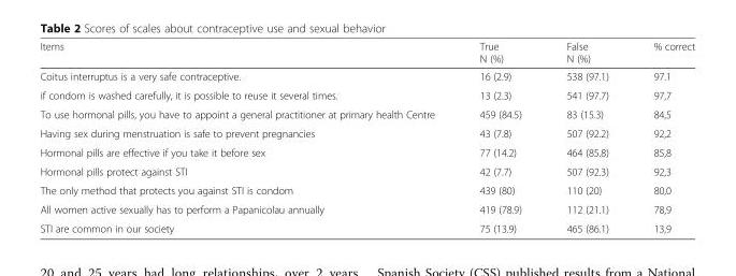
<table><thead><tr><td>Items</td><td>True N (%)</td><td>False N (%)</td><td>% correct</td></tr></thead><tbody><tr><td>Coitus interruptus is a very safe contraceptive.</td><td>16 (2.9)</td><td>538 (97.1)</td><td>97.1</td></tr><tr><td>if condom is washed carefully, it is possible to reuse it several times.</td><td>13 (2.3)</td><td>541 (97.7)</td><td>97,7</td></tr><tr><td>To use hormonal pills, you have to appoint a general practitioner at primary health Centre</td><td>459 (84.5)</td><td>83 (15.3)</td><td>84,5</td></tr><tr><td>Having sex during menstruation is safe to prevent pregnancies</td><td>43 (7.8)</td><td>507 (92.2)</td><td>92,2</td></tr><tr><td>Hormonal pills are effective if you take it before sex</td><td>77 (14.2)</td><td>464 (85.8)</td><td>85,8</td></tr><tr><td>Hormonal pills protect against STI</td><td>42 (7.7)</td><td>507 (92.3)</td><td>92,3</td></tr><tr><td>The only method that protects you against STI is condom</td><td>439 (80)</td><td>110 (20)</td><td>80,0</td></tr><tr><td>All women active sexually has to perform a Papanicolau annually</td><td>419 (78.9)</td><td>112 (21.1)</td><td>78,9</td></tr><tr><td>STI are common in our society</td><td>75 (13.9)</td><td>465 (86.1)</td><td>13,9</td></tr></tbody></table>